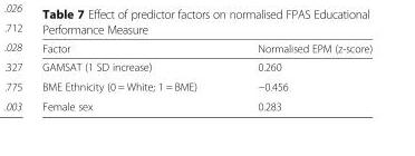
<table><thead><tr><td>Factor</td><td>Normalised EPM (z-score)</td></tr></thead><tbody><tr><td>GAMSAT (1 SD increase)</td><td>0.260</td></tr><tr><td>BME Ethnicity (0 = White; 1 = BME)</td><td>−0.456</td></tr><tr><td>Female sex</td><td>0.283</td></tr></tbody></table>